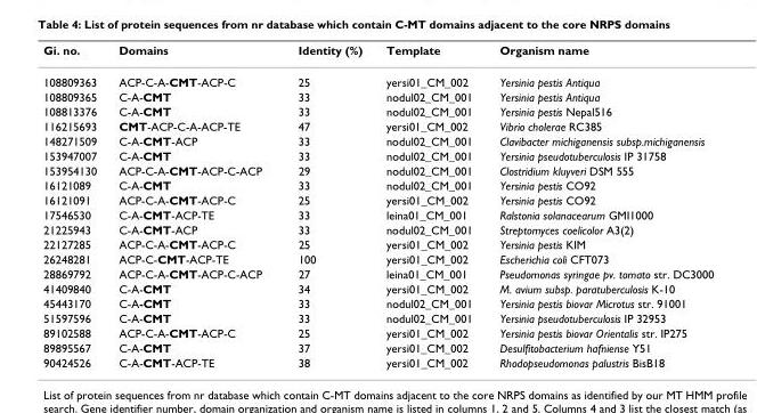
<table><thead><tr><td>Gi. no.</td><td>Domains</td><td>Identity (%)</td><td>Template</td><td>Organism name</td></tr></thead><tbody><tr><td>108809363</td><td>ACP-C-A-CMT-ACP-C</td><td>25</td><td>yersi01_CM_002</td><td>Yersinia pestis Antiqua</td></tr><tr><td>108809365</td><td>C-A-CMT</td><td>33</td><td>nodul02_CM_001</td><td>Yersinia pestis Antiqua</td></tr><tr><td>108813376</td><td>C-A-CMT</td><td>33</td><td>nodul02_CM_001</td><td>Yersinia pestis Nepal516</td></tr><tr><td>116215693</td><td>CMT-ACP-C-A-ACP-TE</td><td>47</td><td>yersi01_CM_002</td><td>Vibrio cholerae RC385</td></tr><tr><td>148271509</td><td>C-A-CMT-ACP</td><td>33</td><td>nodul02_CM_001</td><td>Clavibacter michiganensis subsp.michiganensis</td></tr><tr><td>153947007</td><td>C-A-CMT</td><td>33</td><td>nodul02_CM_001</td><td>Yersinia pseudotuberculosis IP 31758</td></tr><tr><td>153954130</td><td>ACP-C-A-CMT-ACP-C-ACP</td><td>29</td><td>nodul02_CM_001</td><td>Clostridium kluyveri DSM 555</td></tr><tr><td>16121089</td><td>C-A-CMT</td><td>33</td><td>nodul02_CM_001</td><td>Yersinia pestis CO92</td></tr><tr><td>16121091</td><td>ACP-C-A-CMT-ACP-C</td><td>25</td><td>yersi01_CM_002</td><td>Yersinia pestis CO92</td></tr><tr><td>17546530</td><td>C-A-CMT-ACP-TE</td><td>33</td><td>leina01_CM_001</td><td>Ralstonia solanacearum GMI1000</td></tr><tr><td>21225943</td><td>C-A-CMT-ACP</td><td>33</td><td>nodul02_CM_001</td><td>Streptomyces coelicolor A3(2)</td></tr><tr><td>22127285</td><td>ACP-C-A-CMT-ACP-C</td><td>25</td><td>yersi01_CM_002</td><td>Yersinia pestis KIM</td></tr><tr><td>26248281</td><td>ACP-C-CMT-ACP-TE</td><td>100</td><td>yersi01_CM_002</td><td>Escherichia coli CFT073</td></tr><tr><td>28869792</td><td>ACP-C-A-CMT-ACP-C-ACP</td><td>27</td><td>leina01_CM_001</td><td>Pseudomonas syringae pv. tomato str. DC3000</td></tr><tr><td>41409840</td><td>C-A-CMT</td><td>34</td><td>yersi01_CM_002</td><td>M. avium subsp. paratuberculosis K-10</td></tr><tr><td>45443170</td><td>C-A-CMT</td><td>33</td><td>nodul02_CM_001</td><td>Yersinia pestis biovar Microtus str. 91001</td></tr><tr><td>51597596</td><td>C-A-CMT</td><td>33</td><td>nodul02_CM_001</td><td>Yersinia pseudotuberculosis IP 32953</td></tr><tr><td>89102588</td><td>ACP-C-A-CMT-ACP-C</td><td>25</td><td>yersi01_CM_002</td><td>Yersinia pestis biovar Orientalis str. IP275</td></tr><tr><td>89895567</td><td>C-A-CMT</td><td>37</td><td>yersi01_CM_002</td><td>Desulfitobacterium hafniense Y51</td></tr><tr><td>90424526</td><td>C-A-CMT-ACP-TE</td><td>38</td><td>yersi01_CM_002</td><td>Rhodopseudomonas palustris BisB18</td></tr></tbody></table>